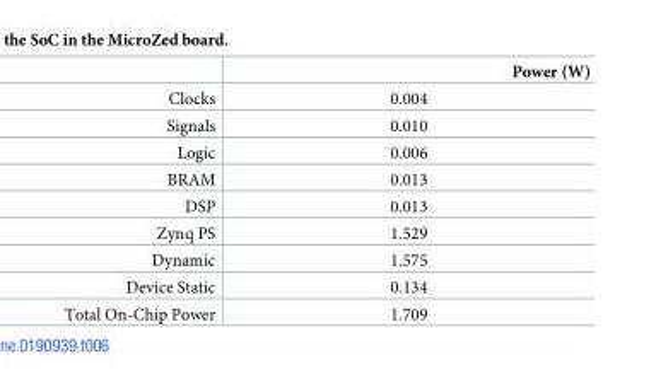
<table><thead><tr><td></td><td>Power (W)</td></tr></thead><tbody><tr><td>Clocks</td><td>0.004</td></tr><tr><td>Signals</td><td>0.010</td></tr><tr><td>Logic</td><td>0.006</td></tr><tr><td>BRAM</td><td>0.013</td></tr><tr><td>DSP</td><td>0.013</td></tr><tr><td>Zynq PS</td><td>1.529</td></tr><tr><td>Dynamic</td><td>1.575</td></tr><tr><td>Device Static</td><td>0.134</td></tr><tr><td>Total On-Chip Power</td><td>1.709</td></tr></tbody></table>